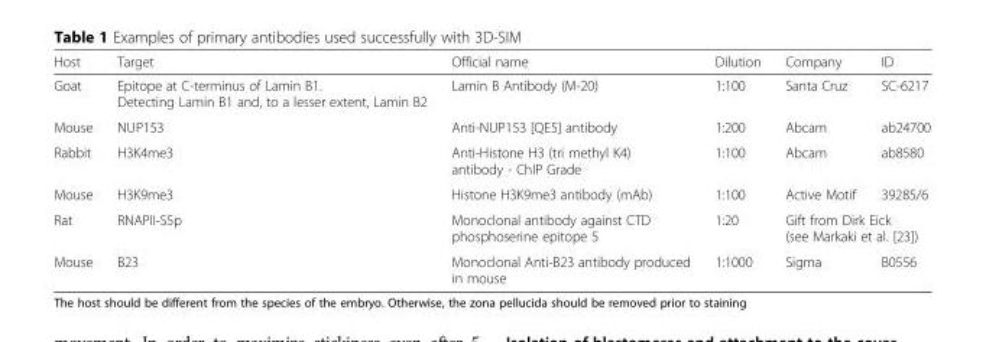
<table><thead><tr><td>Host</td><td>Target</td><td>Official name</td><td>Dilution</td><td>Company</td><td>ID</td></tr></thead><tbody><tr><td>Goat</td><td>Epitope at C-terminus of Lamin B1. Detecting Lamin B1 and, to a lesser extent, Lamin B2</td><td>Lamin B Antibody (M-20)</td><td>1:100</td><td>Santa Cruz</td><td>SC-6217</td></tr><tr><td>Mouse</td><td>NUP153</td><td>Anti-NUP153 [QE5] antibody</td><td>1:200</td><td>Abcam</td><td>ab24700</td></tr><tr><td>Rabbit</td><td>H3K4me3</td><td>Anti-Histone H3 (tri methyl K4) antibody - ChIP Grade</td><td>1:100</td><td>Abcam</td><td>ab8580</td></tr><tr><td>Mouse</td><td>H3K9me3</td><td>Histone H3K9me3 antibody (mAb)</td><td>1:100</td><td>Active Motif</td><td>39285/6</td></tr><tr><td>Rat</td><td>RNAPII-S5p</td><td>Monoclonal antibody against CTD phosphoserine epitope 5</td><td>1:20</td><td colspan="2">Gift from Dirk Eick (see Markaki et al. [23])</td></tr><tr><td>Mouse</td><td>B23</td><td>Monoclonal Anti-B23 antibody produced in mouse</td><td>1:1000</td><td>Sigma</td><td>B0556</td></tr></tbody></table>